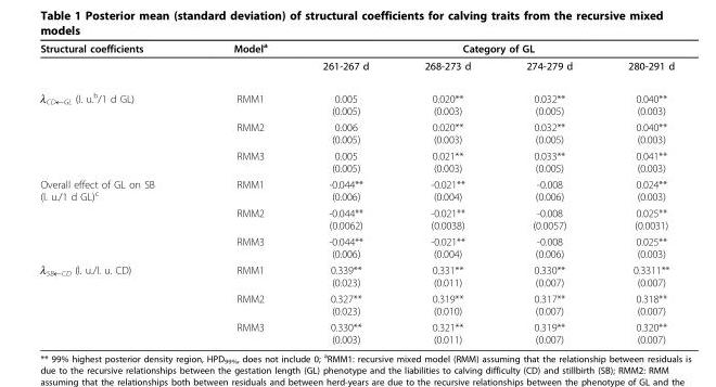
<table><tbody><tr><td rowspan="2">Structural coefficients</td><td>Model<sup>a</sup></td><td colspan="4">Category of GL</td></tr><tr><td></td><td>261-267 d</td><td>268-273 d</td><td>274-279 d</td><td>280-291 d</td></tr><tr><td rowspan="3">lCD¬GL (l. u.b/1 d GL)</td><td>RMM1</td><td>0.005 (0.005)</td><td>0.020** (0.003)</td><td>0.032** (0.005)</td><td>0.040** (0.003)</td></tr><tr><td>RMM2</td><td>0.006 (0.005)</td><td>0.020** (0.003)</td><td>0.032** (0.005)</td><td>0.040** (0.003)</td></tr><tr><td>RMM3</td><td>0.005 (0.005)</td><td>0.021** (0.003)</td><td>0.033** (0.005)</td><td>0.041** (0.003)</td></tr><tr><td rowspan="3">Overall effect of GL on SB (l. u./1 d GL)<sup>c</sup></td><td>RMM1</td><td>-0.044** (0.006)</td><td>-0.021** (0.004)</td><td>-0.008 (0.006)</td><td>0.024** (0.003)</td></tr><tr><td>RMM2</td><td>-0.044** (0.0062)</td><td>-0.021** (0.0038)</td><td>-0.008 (0.0057)</td><td>0.025** (0.0031)</td></tr><tr><td>RMM3</td><td>-0.044** (0.006)</td><td>-0.021** (0.004)</td><td>-0.008 (0.006)</td><td>0.025** (0.003)</td></tr><tr><td rowspan="3">lSB¬CD (l. u./l. u. CD)</td><td>RMM1</td><td>0.339** (0.023)</td><td>0.331** (0.011)</td><td>0.330** (0.007)</td><td>0.3311** (0.007)</td></tr><tr><td>RMM2</td><td>0.327** (0.023)</td><td>0.319** (0.010)</td><td>0.317** (0.007)</td><td>0.318** (0.007)</td></tr><tr><td>RMM3</td><td>0.330** (0.003)</td><td>0.321** (0.011)</td><td>0.319** (0.007)</td><td>0.320** (0.007)</td></tr></tbody></table>